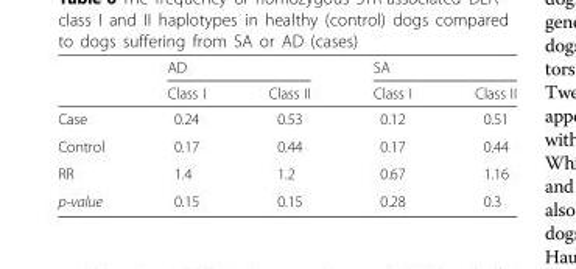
<table><thead><tr><td rowspan="2"></td><td colspan="2">AD</td><td colspan="2">SA</td></tr><tr><td>Class I</td><td>Class II</td><td>Class I</td><td>Class II</td></tr></thead><tbody><tr><td>Case</td><td>0.24</td><td>0.53</td><td>0.12</td><td>0.51</td></tr><tr><td>Control</td><td>0.17</td><td>0.44</td><td>0.17</td><td>0.44</td></tr><tr><td>RR</td><td>1.4</td><td>1.2</td><td>0.67</td><td>1.16</td></tr><tr><td>p-value</td><td>0.15</td><td>0.15</td><td>0.28</td><td>0.3</td></tr></tbody></table>